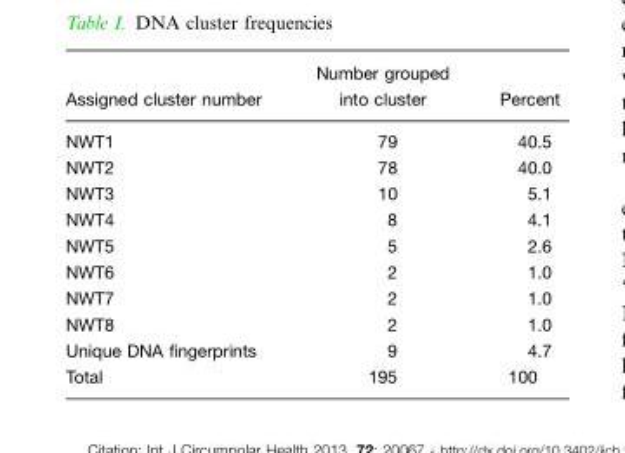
<table><thead><tr><td>Assigned cluster number</td><td>Number grouped into cluster</td><td>Percent</td></tr></thead><tbody><tr><td>NWT1</td><td>79</td><td>40.5</td></tr><tr><td>NWT2</td><td>78</td><td>40.0</td></tr><tr><td>NWT3</td><td>10</td><td>5.1</td></tr><tr><td>NWT4</td><td>8</td><td>4.1</td></tr><tr><td>NWT5</td><td>5</td><td>2.6</td></tr><tr><td>NWT6</td><td>2</td><td>1.0</td></tr><tr><td>NWT7</td><td>2</td><td>1.0</td></tr><tr><td>NWT8</td><td>2</td><td>1.0</td></tr><tr><td>Unique DNA fingerprints</td><td>9</td><td>4.7</td></tr><tr><td>Total</td><td>195</td><td>100</td></tr></tbody></table>